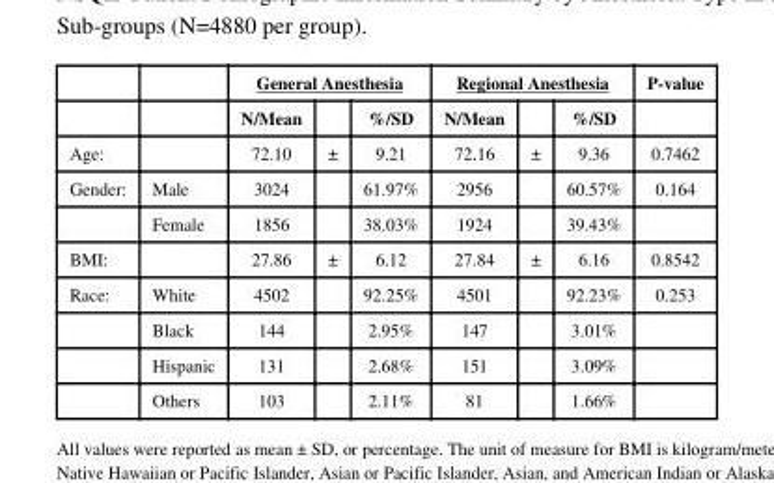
<table><thead><tr><td rowspan="2"></td><td rowspan="2"></td><td colspan="3">General Anesthesia</td><td colspan="3">Regional Anesthesia</td><td rowspan="2">P-value</td></tr><tr><td>N/Mean</td><td></td><td>%/SD</td><td>N/Mean</td><td></td><td>%/SD</td></tr></thead><tbody><tr><td>Age:</td><td></td><td>72.10</td><td>±</td><td>9.21</td><td>72.16</td><td>±</td><td>9.36</td><td>0.7462</td></tr><tr><td rowspan="2">Gender:</td><td>Male</td><td>3024</td><td></td><td>61.97%</td><td>2956</td><td></td><td>60.57%</td><td>0.164</td></tr><tr><td>Female</td><td>1856</td><td></td><td>38.03%</td><td>1924</td><td></td><td>39.43%</td><td></td></tr><tr><td>BMI:</td><td></td><td>27.86</td><td>±</td><td>6.12</td><td>27.84</td><td>±</td><td>6.16</td><td>0.8542</td></tr><tr><td rowspan="4">Race:</td><td>White</td><td>4502</td><td></td><td>92.25%</td><td>4501</td><td></td><td>92.23%</td><td>0.253</td></tr><tr><td>Black</td><td>144</td><td></td><td>2.95%</td><td>147</td><td></td><td>3.01%</td><td></td></tr><tr><td>Hispanic</td><td>131</td><td></td><td>2.68%</td><td>151</td><td></td><td>3.09%</td><td></td></tr><tr><td>Others</td><td>103</td><td></td><td>2.11%</td><td>81</td><td></td><td>1.66%</td><td></td></tr></tbody></table>